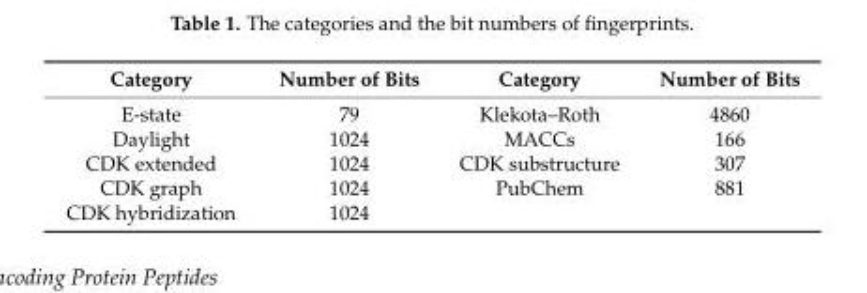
<table><thead><tr><td>Category</td><td>Number of Bits</td><td>Category</td><td>Number of Bits</td></tr></thead><tbody><tr><td>E-state</td><td>79</td><td>Klekota–Roth</td><td>4860</td></tr><tr><td>Daylight</td><td>1024</td><td>MACCs</td><td>166</td></tr><tr><td>CDK extended</td><td>1024</td><td>CDK substructure</td><td>307</td></tr><tr><td>CDK graph</td><td>1024</td><td>PubChem</td><td>881</td></tr><tr><td>CDK hybridization</td><td>1024</td><td></td><td></td></tr></tbody></table>